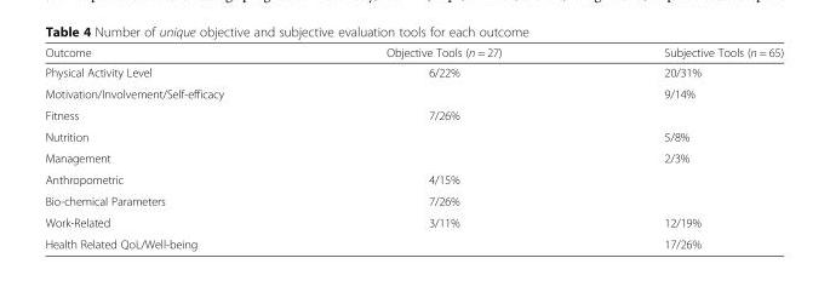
<table><thead><tr><td>Outcome</td><td>Objective Tools (n = 27)</td><td>Subjective Tools (n = 65)</td></tr></thead><tbody><tr><td>Physical Activity Level</td><td>6/22%</td><td>20/31%</td></tr><tr><td>Motivation/Involvement/Self-efficacy</td><td></td><td>9/14%</td></tr><tr><td>Fitness</td><td>7/26%</td><td></td></tr><tr><td>Nutrition</td><td></td><td>5/8%</td></tr><tr><td>Management</td><td></td><td>2/3%</td></tr><tr><td>Anthropometric</td><td>4/15%</td><td></td></tr><tr><td>Bio-chemical Parameters</td><td>7/26%</td><td></td></tr><tr><td>Work-Related</td><td>3/11%</td><td>12/19%</td></tr><tr><td>Health Related QoL/Well-being</td><td></td><td>17/26%</td></tr></tbody></table>